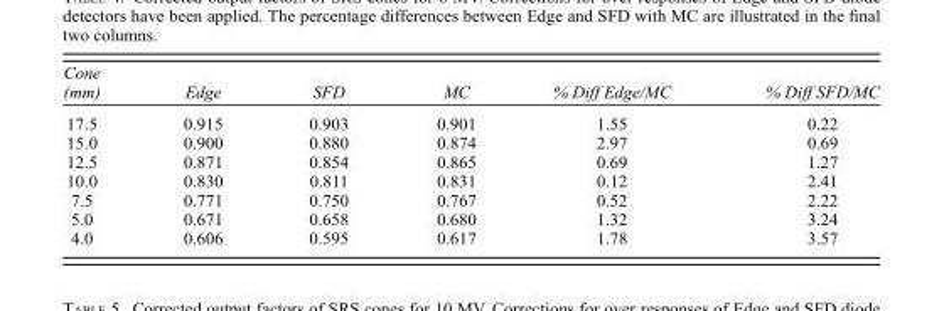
<table><thead><tr><td>Cone (mm)</td><td>Edge</td><td>SFD</td><td>MC</td><td>% Diff Edge/MC</td><td>% Diff SFD/MC</td></tr></thead><tbody><tr><td>17.5</td><td>0.915</td><td>0.903</td><td>0.901</td><td>1.55</td><td>0.22</td></tr><tr><td>15.0</td><td>0.900</td><td>0.880</td><td>0.874</td><td>2.97</td><td>0.69</td></tr><tr><td>12.5</td><td>0.871</td><td>0.854</td><td>0.865</td><td>0.69</td><td>1.27</td></tr><tr><td>10.0</td><td>0.830</td><td>0.811</td><td>0.831</td><td>0.12</td><td>2.41</td></tr><tr><td>7.5</td><td>0.771</td><td>0.750</td><td>0.767</td><td>0.52</td><td>2.22</td></tr><tr><td>5.0</td><td>0.671</td><td>0.658</td><td>0.680</td><td>1.32</td><td>3.24</td></tr><tr><td>4.0</td><td>0.606</td><td>0.595</td><td>0.617</td><td>1.78</td><td>3.57</td></tr></tbody></table>